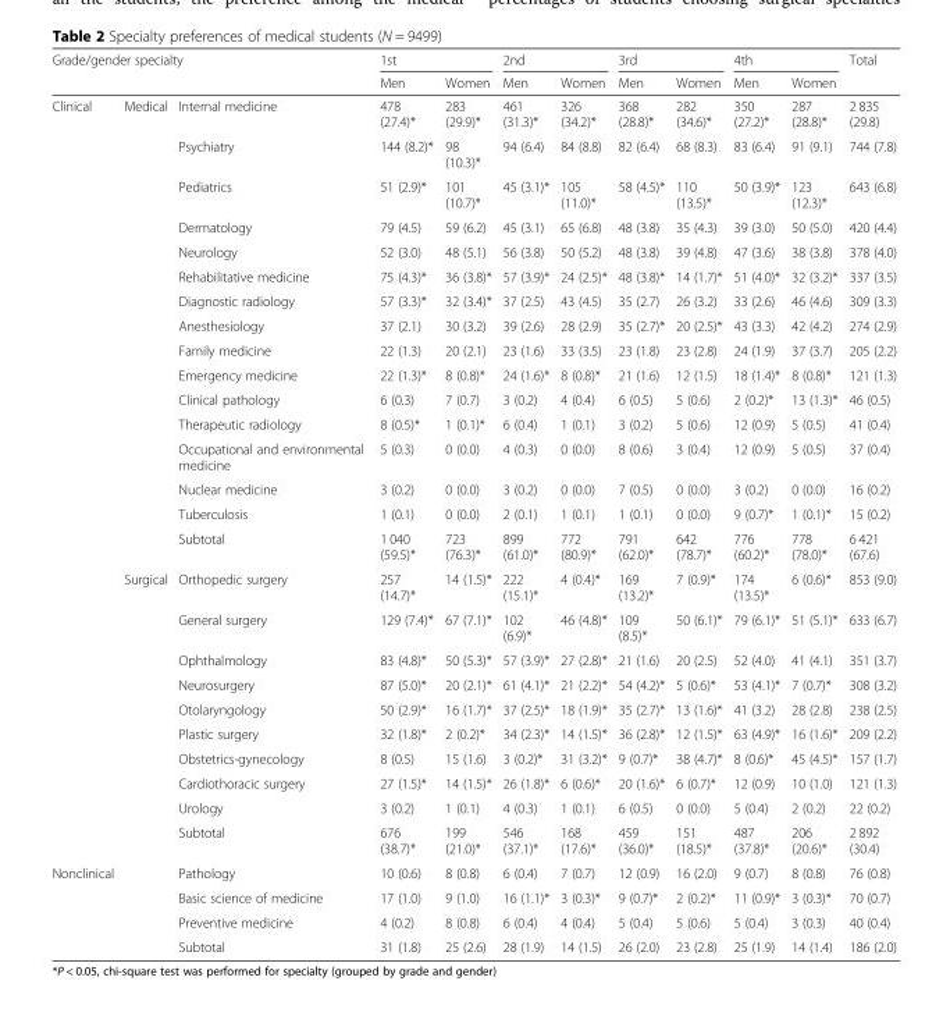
<table><thead><tr><td rowspan="2" colspan="3">Grade/gender specialty</td><td colspan="2">1st</td><td colspan="2">2nd</td><td colspan="2">3rd</td><td colspan="2">4th</td><td rowspan="3">Total 2 835 (29.8)</td></tr><tr><td rowspan="2">Men 478 (27.4)*</td><td rowspan="2">Women 283 (29.9)*</td><td rowspan="2">Men 461 (31.3)*</td><td rowspan="2">Women 326 (34.2)*</td><td rowspan="2">Men 368 (28.8)*</td><td rowspan="2">Women 282 (34.6)*</td><td rowspan="2">Men 350 (27.2)*</td><td rowspan="2">Women 287 (28.8)*</td></tr><tr><td>Clinical</td><td>Medical</td><td>Internal medicine</td></tr></thead><tbody><tr><td></td><td></td><td>Psychiatry</td><td>144 (8.2)*</td><td>98 (10.3)*</td><td>94 (6.4)</td><td>84 (8.8)</td><td>82 (6.4)</td><td>68 (8.3)</td><td>83 (6.4)</td><td>91 (9.1)</td><td>744 (7.8)</td></tr><tr><td></td><td></td><td>Pediatrics</td><td>51 (2.9)*</td><td>101 (10.7)*</td><td>45 (3.1)*</td><td>105 (11.0)*</td><td>58 (4.5)*</td><td>110 (13.5)*</td><td>50 (3.9)*</td><td>123 (12.3)*</td><td>643 (6.8)</td></tr><tr><td></td><td></td><td>Dermatology</td><td>79 (4.5)</td><td>59 (6.2)</td><td>45 (3.1)</td><td>65 (6.8)</td><td>48 (3.8)</td><td>35 (4.3)</td><td>39 (3.0)</td><td>50 (5.0)</td><td>420 (4.4)</td></tr><tr><td></td><td></td><td>Neurology</td><td>52 (3.0)</td><td>48 (5.1)</td><td>56 (3.8)</td><td>50 (5.2)</td><td>48 (3.8)</td><td>39 (4.8)</td><td>47 (3.6)</td><td>38 (3.8)</td><td>378 (4.0)</td></tr><tr><td></td><td></td><td>Rehabilitative medicine</td><td>75 (4.3)*</td><td>36 (3.8)*</td><td>57 (3.9)*</td><td>24 (2.5)*</td><td>48 (3.8)*</td><td>14 (1.7)*</td><td>51 (4.0)*</td><td>32 (3.2)*</td><td>337 (3.5)</td></tr><tr><td></td><td></td><td>Diagnostic radiology</td><td>57 (3.3)*</td><td>32 (3.4)*</td><td>37 (2.5)</td><td>43 (4.5)</td><td>35 (2.7)</td><td>26 (3.2)</td><td>33 (2.6)</td><td>46 (4.6)</td><td>309 (3.3)</td></tr><tr><td></td><td></td><td>Anesthesiology</td><td>37 (2.1)</td><td>30 (3.2)</td><td>39 (2.6)</td><td>28 (2.9)</td><td>35 (2.7)*</td><td>20 (2.5)*</td><td>43 (3.3)</td><td>42 (4.2)</td><td>274 (2.9)</td></tr><tr><td></td><td></td><td>Family medicine</td><td>22 (1.3)</td><td>20 (2.1)</td><td>23 (1.6)</td><td>33 (3.5)</td><td>23 (1.8)</td><td>23 (2.8)</td><td>24 (1.9)</td><td>37 (3.7)</td><td>205 (2.2)</td></tr><tr><td></td><td></td><td>Emergency medicine</td><td>22 (1.3)*</td><td>8 (0.8)*</td><td>24 (1.6)*</td><td>8 (0.8)*</td><td>21 (1.6)</td><td>12 (1.5)</td><td>18 (1.4)*</td><td>8 (0.8)*</td><td>121 (1.3)</td></tr><tr><td></td><td></td><td>Clinical pathology</td><td>6 (0.3)</td><td>7 (0.7)</td><td>3 (0.2)</td><td>4 (0.4)</td><td>6 (0.5)</td><td>5 (0.6)</td><td>2 (0.2)*</td><td>13 (1.3)*</td><td>46 (0.5)</td></tr><tr><td></td><td></td><td>Therapeutic radiology</td><td>8 (0.5)*</td><td>1 (0.1)*</td><td>6 (0.4)</td><td>1 (0.1)</td><td>3 (0.2)</td><td>5 (0.6)</td><td>12 (0.9)</td><td>5 (0.5)</td><td>41 (0.4)</td></tr><tr><td></td><td></td><td>Occupational and environmental medicine</td><td>5 (0.3)</td><td>0 (0.0)</td><td>4 (0.3)</td><td>0 (0.0)</td><td>8 (0.6)</td><td>3 (0.4)</td><td>12 (0.9)</td><td>5 (0.5)</td><td>37 (0.4)</td></tr><tr><td></td><td></td><td>Nuclear medicine</td><td>3 (0.2)</td><td>0 (0.0)</td><td>3 (0.2)</td><td>0 (0.0)</td><td>7 (0.5)</td><td>0 (0.0)</td><td>3 (0.2)</td><td>0 (0.0)</td><td>16 (0.2)</td></tr><tr><td></td><td></td><td>Tuberculosis</td><td>1 (0.1)</td><td>0 (0.0)</td><td>2 (0.1)</td><td>1 (0.1)</td><td>1 (0.1)</td><td>0 (0.0)</td><td>9 (0.7)*</td><td>1 (0.1)*</td><td>15 (0.2)</td></tr><tr><td></td><td></td><td>Subtotal</td><td>1 040 (59.5)*</td><td>723 (76.3)*</td><td>899 (61.0)*</td><td>772 (80.9)*</td><td>791 (62.0)*</td><td>642 (78.7)*</td><td>776 (60.2)*</td><td>778 (78.0)*</td><td>6 421 (67.6)</td></tr><tr><td></td><td>Surgical</td><td>Orthopedic surgery</td><td>257 (14.7)*</td><td>14 (1.5)*</td><td>222 (15.1)*</td><td>4 (0.4)*</td><td>169 (13.2)*</td><td>7 (0.9)*</td><td>174 (13.5)*</td><td>6 (0.6)*</td><td>853 (9.0)</td></tr><tr><td></td><td></td><td>General surgery</td><td>129 (7.4)*</td><td>67 (7.1)*</td><td>102 (6.9)*</td><td>46 (4.8)*</td><td>109 (8.5)*</td><td>50 (6.1)*</td><td>79 (6.1)*</td><td>51 (5.1)*</td><td>633 (6.7)</td></tr><tr><td></td><td></td><td>Ophthalmology</td><td>83 (4.8)*</td><td>50 (5.3)*</td><td>57 (3.9)*</td><td>27 (2.8)*</td><td>21 (1.6)</td><td>20 (2.5)</td><td>52 (4.0)</td><td>41 (4.1)</td><td>351 (3.7)</td></tr><tr><td></td><td></td><td>Neurosurgery</td><td>87 (5.0)*</td><td>20 (2.1)*</td><td>61 (4.1)*</td><td>21 (2.2)*</td><td>54 (4.2)*</td><td>5 (0.6)*</td><td>53 (4.1)*</td><td>7 (0.7)*</td><td>308 (3.2)</td></tr><tr><td></td><td></td><td>Otolaryngology</td><td>50 (2.9)*</td><td>16 (1.7)*</td><td>37 (2.5)*</td><td>18 (1.9)*</td><td>35 (2.7)*</td><td>13 (1.6)*</td><td>41 (3.2)</td><td>28 (2.8)</td><td>238 (2.5)</td></tr><tr><td></td><td></td><td>Plastic surgery</td><td>32 (1.8)*</td><td>2 (0.2)*</td><td>34 (2.3)*</td><td>14 (1.5)*</td><td>36 (2.8)*</td><td>12 (1.5)*</td><td>63 (4.9)*</td><td>16 (1.6)*</td><td>209 (2.2)</td></tr><tr><td></td><td></td><td>Obstetrics-gynecology</td><td>8 (0.5)</td><td>15 (1.6)</td><td>3 (0.2)*</td><td>31 (3.2)*</td><td>9 (0.7)*</td><td>38 (4.7)*</td><td>8 (0.6)*</td><td>45 (4.5)*</td><td>157 (1.7)</td></tr><tr><td></td><td></td><td>Cardiothoracic surgery</td><td>27 (1.5)*</td><td>14 (1.5)*</td><td>26 (1.8)*</td><td>6 (0.6)*</td><td>20 (1.6)*</td><td>6 (0.7)*</td><td>12 (0.9)</td><td>10 (1.0)</td><td>121 (1.3)</td></tr><tr><td></td><td></td><td>Urology</td><td>3 (0.2)</td><td>1 (0.1)</td><td>4 (0.3)</td><td>1 (0.1)</td><td>6 (0.5)</td><td>0 (0.0)</td><td>5 (0.4)</td><td>2 (0.2)</td><td>22 (0.2)</td></tr><tr><td></td><td></td><td>Subtotal</td><td>676 (38.7)*</td><td>199 (21.0)*</td><td>546 (37.1)*</td><td>168 (17.6)*</td><td>459 (36.0)*</td><td>151 (18.5)*</td><td>487 (37.8)*</td><td>206 (20.6)*</td><td>2 892 (30.4)</td></tr><tr><td rowspan="4">Nonclinical</td><td></td><td>Pathology</td><td>10 (0.6)</td><td>8 (0.8)</td><td>6 (0.4)</td><td>7 (0.7)</td><td>12 (0.9)</td><td>16 (2.0)</td><td>9 (0.7)</td><td>8 (0.8)</td><td>76 (0.8)</td></tr><tr><td></td><td>Basic science of medicine</td><td>17 (1.0)</td><td>9 (1.0)</td><td>16 (1.1)*</td><td>3 (0.3)*</td><td>9 (0.7)*</td><td>2 (0.2)*</td><td>11 (0.9)*</td><td>3 (0.3)*</td><td>70 (0.7)</td></tr><tr><td></td><td>Preventive medicine</td><td>4 (0.2)</td><td>8 (0.8)</td><td>6 (0.4)</td><td>4 (0.4)</td><td>5 (0.4)</td><td>5 (0.6)</td><td>5 (0.4)</td><td>3 (0.3)</td><td>40 (0.4)</td></tr><tr><td></td><td>Subtotal</td><td>31 (1.8)</td><td>25 (2.6)</td><td>28 (1.9)</td><td>14 (1.5)</td><td>26 (2.0)</td><td>23 (2.8)</td><td>25 (1.9)</td><td>14 (1.4)</td><td>186 (2.0)</td></tr></tbody></table>